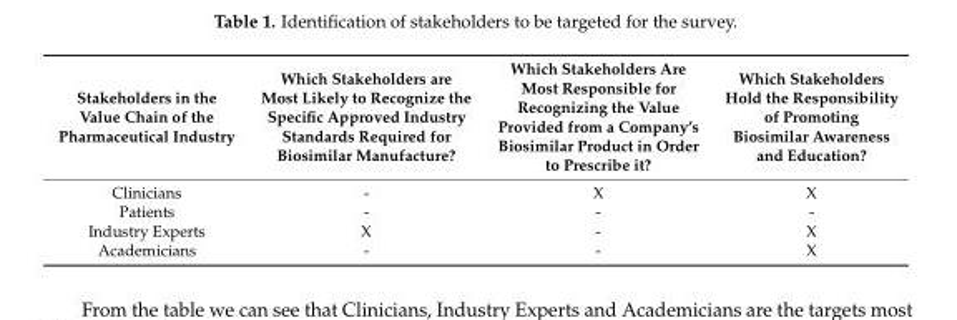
<table><thead><tr><td>Stakeholders in the Value Chain of the Pharmaceutical Industry</td><td>Which Stakeholders are Most Likely to Recognize the Specific Approved Industry Standards Required for Biosimilar Manufacture?</td><td>Which Stakeholders Are Most Responsible for Recognizing the Value Provided from a Company’s Biosimilar Product in Order to Prescribe it?</td><td>Which Stakeholders Hold the Responsibility of Promoting Biosimilar Awareness and Education?</td></tr></thead><tbody><tr><td>Clinicians</td><td>-</td><td>X</td><td>X</td></tr><tr><td>Patients</td><td>-</td><td>-</td><td>-</td></tr><tr><td>Industry Experts</td><td>X</td><td>-</td><td>X</td></tr><tr><td>Academicians</td><td>-</td><td>-</td><td>X</td></tr></tbody></table>